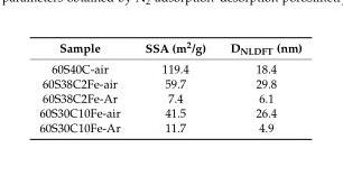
<table><thead><tr><td>Sample</td><td>SSA (m<sup>2</sup>/g)</td><td>D<sub>NLDFT</sub> (nm)</td></tr></thead><tbody><tr><td>60S40C-air</td><td>119.4</td><td>18.4</td></tr><tr><td>60S38C2Fe-air</td><td>59.7</td><td>29.8</td></tr><tr><td>60S38C2Fe-Ar</td><td>7.4</td><td>6.1</td></tr><tr><td>60S30C10Fe-air</td><td>41.5</td><td>26.4</td></tr><tr><td>60S30C10Fe-Ar</td><td>11.7</td><td>4.9</td></tr></tbody></table>